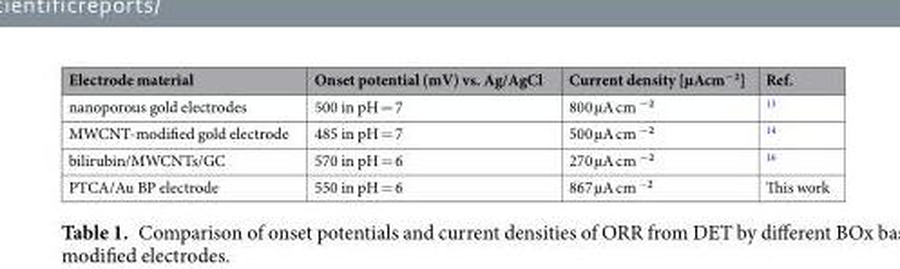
<table><thead><tr><td>Electrode material</td><td>Onset potential (mV) vs. Ag/AgCl</td><td>Current density [µAcm<sup>−2</sup>]</td><td>Ref.</td></tr></thead><tbody><tr><td>nanoporous gold electrodes</td><td>500 in pH = 7</td><td>800 µA cm <sup>−2</sup></td><td><sup>13</sup></td></tr><tr><td>MWCNT-modified gold electrode</td><td>485 in pH = 7</td><td>500 µA cm <sup>−2</sup></td><td><sup>14</sup></td></tr><tr><td>bilirubin/MWCNTs/GC</td><td>570 in pH = 6</td><td>270 µA cm <sup>−2</sup></td><td><sup>16</sup></td></tr><tr><td>PTCA/Au BP electrode</td><td>550 in pH = 6</td><td>867 µA cm <sup>−2</sup></td><td>This work</td></tr></tbody></table>